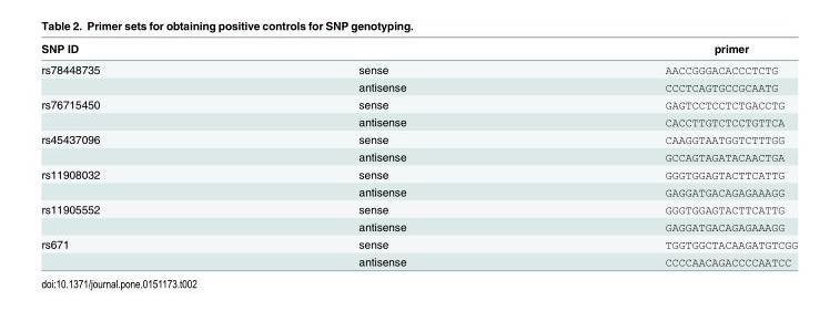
<table><thead><tr><td>SNP ID</td><td></td><td>primer</td></tr></thead><tbody><tr><td rowspan="2">rs78448735</td><td>sense</td><td>AACCGGGACACCCTCTG</td></tr><tr><td>antisense</td><td>CCCTCAGTGCCGCAATG</td></tr><tr><td rowspan="2">rs76715450</td><td>sense</td><td>GAGTCCTCCTCTGACCTG</td></tr><tr><td>antisense</td><td>CACCTTGTCTCCTGTTCA</td></tr><tr><td rowspan="2">rs45437096</td><td>sense</td><td>CAAGGTAATGGTCTTTGG</td></tr><tr><td>antisense</td><td>GCCAGTAGATACAACTGA</td></tr><tr><td rowspan="2">rs11908032</td><td>sense</td><td>GGGTGGAGTACTTCATTG</td></tr><tr><td>antisense</td><td>GAGGATGACAGAGAAAGG</td></tr><tr><td rowspan="2">rs11905552</td><td>sense</td><td>GGGTGGAGTACTTCATTG</td></tr><tr><td>antisense</td><td>GAGGATGACAGAGAAAGG</td></tr><tr><td rowspan="2">rs671</td><td>sense</td><td>TGGTGGCTACAAGATGTCGG</td></tr><tr><td>antisense</td><td>CCCCAACAGACCCCAATCC</td></tr></tbody></table>